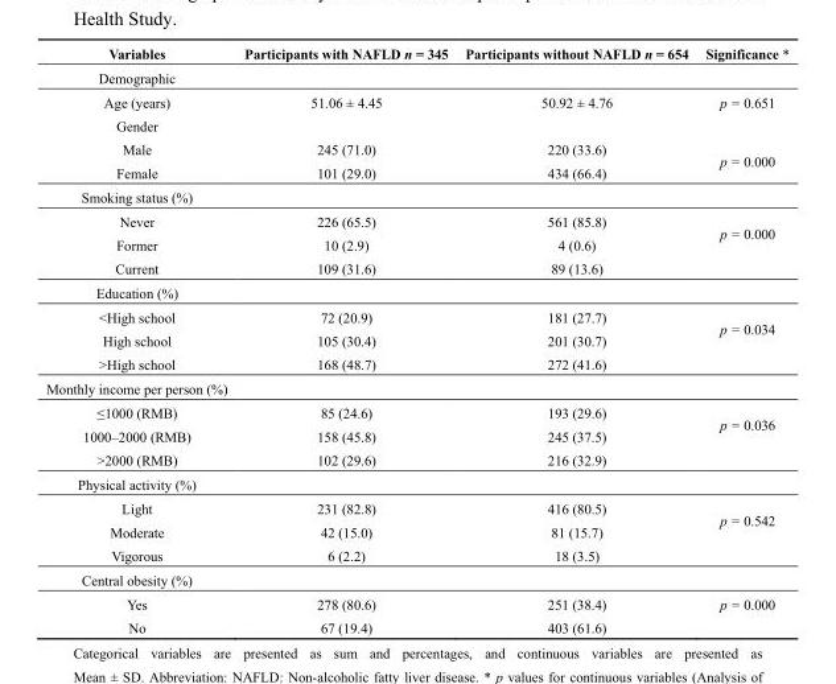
<table><thead><tr><td>Variables</td><td>Participants with NAFLD n = 345</td><td>Participants without NAFLD n = 654</td><td>Significance *</td></tr></thead><tbody><tr><td colspan="4">Demographic</td></tr><tr><td>Age (years)</td><td>51.06 ± 4.45</td><td>50.92 ± 4.76</td><td>p = 0.651</td></tr><tr><td colspan="4">Gender</td></tr><tr><td>Male</td><td>245 (71.0)</td><td>220 (33.6)</td><td rowspan="2">p = 0.000</td></tr><tr><td>Female</td><td>101 (29.0)</td><td>434 (66.4)</td></tr><tr><td colspan="4">Smoking status (%)</td></tr><tr><td>Never</td><td>226 (65.5)</td><td>561 (85.8)</td><td rowspan="2">p = 0.000</td></tr><tr><td>Former</td><td>10 (2.9)</td><td>4 (0.6)</td></tr><tr><td>Current</td><td>109 (31.6)</td><td>89 (13.6)</td><td></td></tr><tr><td colspan="4">Education (%)</td></tr><tr><td>&lt;High school</td><td>72 (20.9)</td><td>181 (27.7)</td><td rowspan="2">p = 0.034</td></tr><tr><td>High school</td><td>105 (30.4)</td><td>201 (30.7)</td></tr><tr><td>&gt;High school</td><td>168 (48.7)</td><td>272 (41.6)</td><td></td></tr><tr><td colspan="4">Monthly income per person (%)</td></tr><tr><td>≤1000 (RMB)</td><td>85 (24.6)</td><td>193 (29.6)</td><td rowspan="2">p = 0.036</td></tr><tr><td>1000–2000 (RMB)</td><td>158 (45.8)</td><td>245 (37.5)</td></tr><tr><td>&gt;2000 (RMB)</td><td>102 (29.6)</td><td>216 (32.9)</td><td></td></tr><tr><td colspan="4">Physical activity (%)</td></tr><tr><td>Light</td><td>231 (82.8)</td><td>416 (80.5)</td><td rowspan="2">p = 0.542</td></tr><tr><td>Moderate</td><td>42 (15.0)</td><td>81 (15.7)</td></tr><tr><td>Vigorous</td><td>6 (2.2)</td><td>18 (3.5)</td><td></td></tr><tr><td colspan="4">Central obesity (%)</td></tr><tr><td>Yes</td><td>278 (80.6)</td><td>251 (38.4)</td><td>p = 0.000</td></tr><tr><td>No</td><td>67 (19.4)</td><td>403 (61.6)</td><td></td></tr></tbody></table>